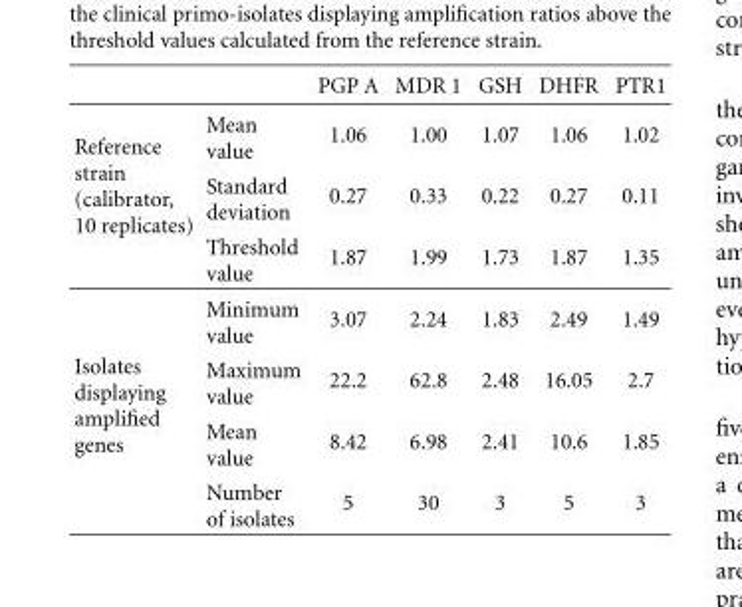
<table><thead><tr><td></td><td></td><td>PGP A</td><td>MDR 1</td><td>GSH</td><td>DHFR</td><td>PTR1</td></tr></thead><tbody><tr><td rowspan="3">Reference strain (calibrator, 10 replicates)</td><td>Mean value</td><td>1.06</td><td>1.00</td><td>1.07</td><td>1.06</td><td>1.02</td></tr><tr><td>Standard deviation</td><td>0.27</td><td>0.33</td><td>0.22</td><td>0.27</td><td>0.11</td></tr><tr><td>Threshold value</td><td>1.87</td><td>1.99</td><td>1.73</td><td>1.87</td><td>1.35</td></tr><tr><td rowspan="4">Isolates displaying amplified genes</td><td>Minimum value</td><td>3.07</td><td>2.24</td><td>1.83</td><td>2.49</td><td>1.49</td></tr><tr><td>Maximum value</td><td>22.2</td><td>62.8</td><td>2.48</td><td>16.05</td><td>2.7</td></tr><tr><td>Mean value</td><td>8.42</td><td>6.98</td><td>2.41</td><td>10.6</td><td>1.85</td></tr><tr><td>Number of isolates</td><td>5</td><td>30</td><td>3</td><td>5</td><td>3</td></tr></tbody></table>